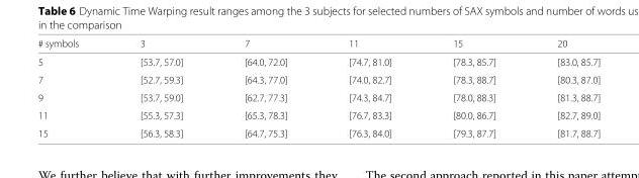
<table><thead><tr><td># symbols</td><td>3</td><td>7</td><td>11</td><td>15</td><td>20</td></tr></thead><tbody><tr><td>5</td><td>[53.7, 57.0]</td><td>[64.0, 72.0]</td><td>[74.7, 81.0]</td><td>[78.3, 85.7]</td><td>[83.0, 85.7]</td></tr><tr><td>7</td><td>[52.7, 59.3]</td><td>[64.3, 77.0]</td><td>[74.0, 82.7]</td><td>[78.3, 88.7]</td><td>[80.3, 87.0]</td></tr><tr><td>9</td><td>[53.7, 59.0]</td><td>[62.7, 77.3]</td><td>[74.3, 84.7]</td><td>[78.0, 88.3]</td><td>[81.3, 88.7]</td></tr><tr><td>11</td><td>[55.3, 57.3]</td><td>[65.3, 78.3]</td><td>[76.7, 83.3]</td><td>[80.0, 86.7]</td><td>[82.7, 89.0]</td></tr><tr><td>15</td><td>[56.3, 58.3]</td><td>[64.7, 75.3]</td><td>[76.3, 84.0]</td><td>[79.3, 87.7]</td><td>[81.7, 88.7]</td></tr></tbody></table>